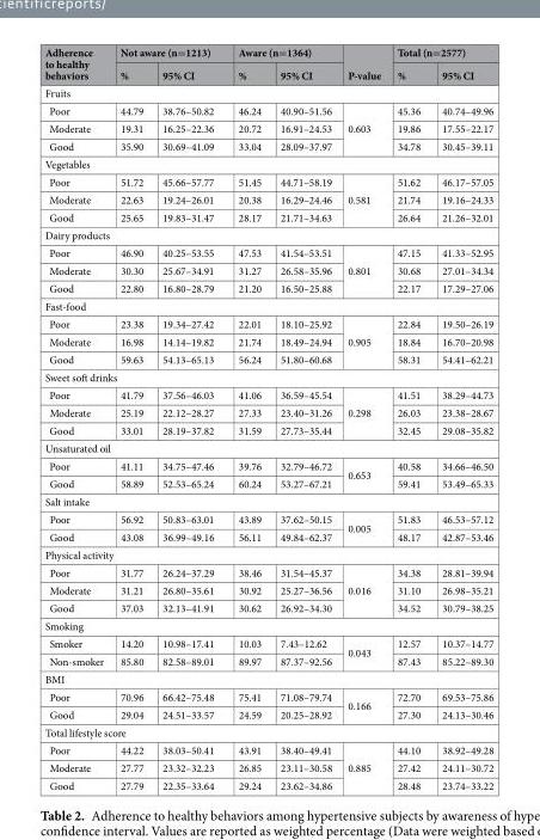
<table><thead><tr><td rowspan="2">Adherence to healthy behaviors</td><td colspan="2">Not aware (n=1213)</td><td colspan="2">Aware (n=1364)</td><td rowspan="2">P-value</td><td colspan="2">Total (n=2577)</td></tr><tr><td>%</td><td>95% CI</td><td>%</td><td>95% CI</td><td>%</td><td>95% CI</td></tr></thead><tbody><tr><td colspan="8">Fruits</td></tr><tr><td>Poor</td><td>44.79</td><td>38.76–50.82</td><td>46.24</td><td>40.90–51.56</td><td rowspan="3">0.603</td><td>45.36</td><td>40.74–49.96</td></tr><tr><td>Moderate</td><td>19.31</td><td>16.25–22.36</td><td>20.72</td><td>16.91–24.53</td><td>19.86</td><td>17.55–22.17</td></tr><tr><td>Good</td><td>35.90</td><td>30.69–41.09</td><td>33.04</td><td>28.09–37.97</td><td>34.78</td><td>30.45–39.11</td></tr><tr><td colspan="8">Vegetables</td></tr><tr><td>Poor</td><td>51.72</td><td>45.66–57.77</td><td>51.45</td><td>44.71–58.19</td><td rowspan="3">0.581</td><td>51.62</td><td>46.17–57.05</td></tr><tr><td>Moderate</td><td>22.63</td><td>19.24–26.01</td><td>20.38</td><td>16.29–24.46</td><td>21.74</td><td>19.16–24.33</td></tr><tr><td>Good</td><td>25.65</td><td>19.83–31.47</td><td>28.17</td><td>21.71–34.63</td><td>26.64</td><td>21.26–32.01</td></tr><tr><td colspan="8">Dairy products</td></tr><tr><td>Poor</td><td>46.90</td><td>40.25–53.55</td><td>47.53</td><td>41.54–53.51</td><td rowspan="3">0.801</td><td>47.15</td><td>41.33–52.95</td></tr><tr><td>Moderate</td><td>30.30</td><td>25.67–34.91</td><td>31.27</td><td>26.58–35.96</td><td>30.68</td><td>27.01–34.34</td></tr><tr><td>Good</td><td>22.80</td><td>16.80–28.79</td><td>21.20</td><td>16.50–25.88</td><td>22.17</td><td>17.29–27.06</td></tr><tr><td colspan="8">Fast-food</td></tr><tr><td>Poor</td><td>23.38</td><td>19.34–27.42</td><td>22.01</td><td>18.10–25.92</td><td rowspan="3">0.905</td><td>22.84</td><td>19.50–26.19</td></tr><tr><td>Moderate</td><td>16.98</td><td>14.14–19.82</td><td>21.74</td><td>18.49–24.94</td><td>18.84</td><td>16.70–20.98</td></tr><tr><td>Good</td><td>59.63</td><td>54.13–65.13</td><td>56.24</td><td>51.80–60.68</td><td>58.31</td><td>54.41–62.21</td></tr><tr><td colspan="8">Sweet soft drinks</td></tr><tr><td>Poor</td><td>41.79</td><td>37.56–46.03</td><td>41.06</td><td>36.59–45.54</td><td rowspan="3">0.298</td><td>41.51</td><td>38.29–44.73</td></tr><tr><td>Moderate</td><td>25.19</td><td>22.12–28.27</td><td>27.33</td><td>23.40–31.26</td><td>26.03</td><td>23.38–28.67</td></tr><tr><td>Good</td><td>33.01</td><td>28.19–37.82</td><td>31.59</td><td>27.73–35.44</td><td>32.45</td><td>29.08–35.82</td></tr><tr><td colspan="8">Unsaturated oil</td></tr><tr><td>Poor</td><td>41.11</td><td>34.75–47.46</td><td>39.76</td><td>32.79–46.72</td><td rowspan="2">0.653</td><td>40.58</td><td>34.66–46.50</td></tr><tr><td>Good</td><td>58.89</td><td>52.53–65.24</td><td>60.24</td><td>53.27–67.21</td><td>59.41</td><td>53.49–65.33</td></tr><tr><td colspan="8">Salt intake</td></tr><tr><td>Poor</td><td>56.92</td><td>50.83–63.01</td><td>43.89</td><td>37.62–50.15</td><td rowspan="2">0.005</td><td>51.83</td><td>46.53–57.12</td></tr><tr><td>Good</td><td>43.08</td><td>36.99–49.16</td><td>56.11</td><td>49.84–62.37</td><td>48.17</td><td>42.87–53.46</td></tr><tr><td colspan="8">Physical activity</td></tr><tr><td>Poor</td><td>31.77</td><td>26.24–37.29</td><td>38.46</td><td>31.54–45.37</td><td rowspan="3">0.016</td><td>34.38</td><td>28.81–39.94</td></tr><tr><td>Moderate</td><td>31.21</td><td>26.80–35.61</td><td>30.92</td><td>25.27–36.56</td><td>31.10</td><td>26.98–35.21</td></tr><tr><td>Good</td><td>37.03</td><td>32.13–41.91</td><td>30.62</td><td>26.92–34.30</td><td>34.52</td><td>30.79–38.25</td></tr><tr><td colspan="8">Smoking</td></tr><tr><td>Smoker</td><td>14.20</td><td>10.98–17.41</td><td>10.03</td><td>7.43–12.62</td><td rowspan="2">0.043</td><td>12.57</td><td>10.37–14.77</td></tr><tr><td>Non-smoker</td><td>85.80</td><td>82.58–89.01</td><td>89.97</td><td>87.37–92.56</td><td>87.43</td><td>85.22–89.30</td></tr><tr><td colspan="8">BMI</td></tr><tr><td>Poor</td><td>70.96</td><td>66.42–75.48</td><td>75.41</td><td>71.08–79.74</td><td rowspan="2">0.166</td><td>72.70</td><td>69.53–75.86</td></tr><tr><td>Good</td><td>29.04</td><td>24.51–33.57</td><td>24.59</td><td>20.25–28.92</td><td>27.30</td><td>24.13–30.46</td></tr><tr><td colspan="8">Total lifestyle score</td></tr><tr><td>Poor</td><td>44.22</td><td>38.03–50.41</td><td>43.91</td><td>38.40–49.41</td><td rowspan="3">0.885</td><td>44.10</td><td>38.92–49.28</td></tr><tr><td>Moderate</td><td>27.77</td><td>23.32–32.23</td><td>26.85</td><td>23.11–30.58</td><td>27.42</td><td>24.11–30.72</td></tr><tr><td>Good</td><td>27.79</td><td>22.35–33.64</td><td>29.24</td><td>23.62–34.86</td><td>28.48</td><td>23.74–33.22</td></tr></tbody></table>